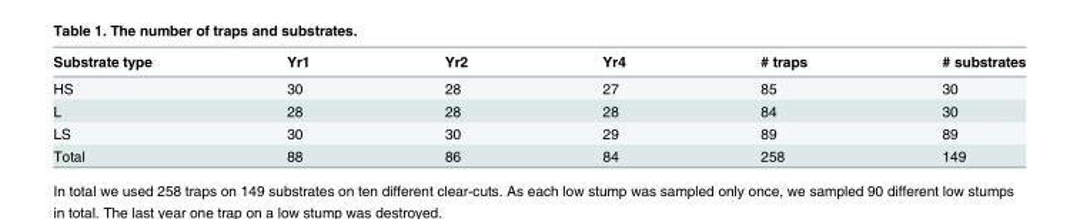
<table><thead><tr><td>Substrate type</td><td>Yr1</td><td>Yr2</td><td>Yr4</td><td># traps</td><td># substrates</td></tr></thead><tbody><tr><td>HS</td><td>30</td><td>28</td><td>27</td><td>85</td><td>30</td></tr><tr><td>L</td><td>28</td><td>28</td><td>28</td><td>84</td><td>30</td></tr><tr><td>LS</td><td>30</td><td>30</td><td>29</td><td>89</td><td>89</td></tr><tr><td>Total</td><td>88</td><td>86</td><td>84</td><td>258</td><td>149</td></tr></tbody></table>